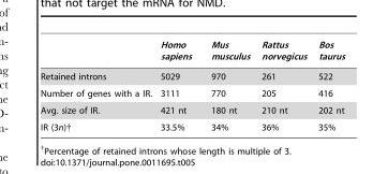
<table><thead><tr><td></td><td>Homo sapiens</td><td>Mus musculus</td><td>Rattus norvegicus</td><td>Bos taurus</td></tr></thead><tbody><tr><td>Retained introns</td><td>5029</td><td>970</td><td>261</td><td>522</td></tr><tr><td>Number of genes with a IR.</td><td>3111</td><td>770</td><td>205</td><td>416</td></tr><tr><td>Avg. size of IR.</td><td>421 nt</td><td>180 nt</td><td>210 nt</td><td>202 nt</td></tr><tr><td>IR (3n)†</td><td>33.5%</td><td>34%</td><td>36%</td><td>35%</td></tr></tbody></table>